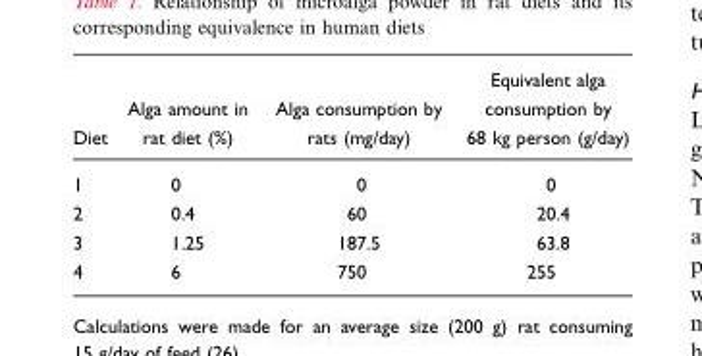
<table><thead><tr><td>Diet</td><td>Alga amount in rat diet (%)</td><td>Alga consumption by rats (mg/day)</td><td>Equivalent alga consumption by 68 kg person (g/day)</td></tr></thead><tbody><tr><td>1</td><td>0</td><td>0</td><td>0</td></tr><tr><td>2</td><td>0.4</td><td>60</td><td>20.4</td></tr><tr><td>3</td><td>1.25</td><td>187.5</td><td>63.8</td></tr><tr><td>4</td><td>6</td><td>750</td><td>255</td></tr></tbody></table>